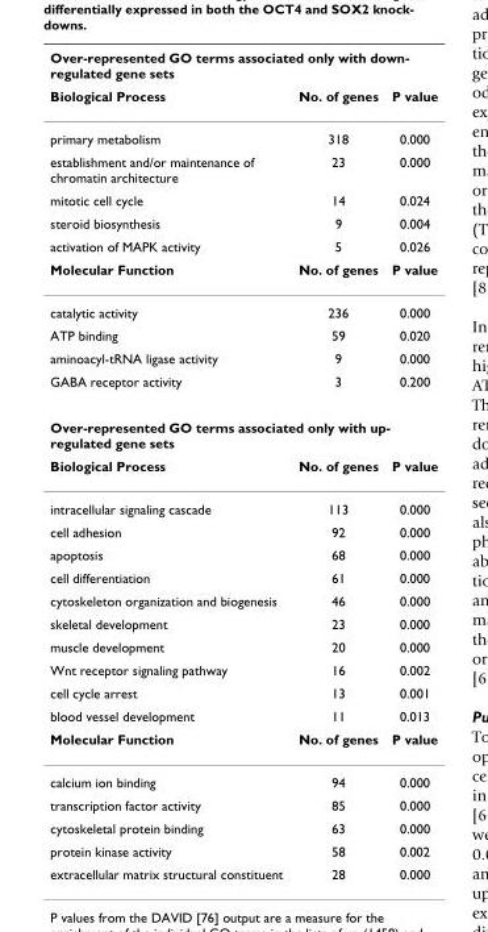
<table><thead><tr><td colspan="3">Over-represented GO terms associated only with down- regulated gene sets</td></tr><tr><td>Biological Process</td><td>No. of genes</td><td>P value</td></tr></thead><tbody><tr><td>primary metabolism</td><td>318</td><td>0.000</td></tr><tr><td>establishment and/or maintenance of chromatin architecture</td><td>23</td><td>0.000</td></tr><tr><td>mitotic cell cycle</td><td>14</td><td>0.024</td></tr><tr><td>steroid biosynthesis</td><td>9</td><td>0.004</td></tr><tr><td>activation of MAPK activity</td><td>5</td><td>0.026</td></tr><tr><td>Molecular Function</td><td>No. of genes</td><td>P value</td></tr><tr><td>catalytic activity</td><td>236</td><td>0.000</td></tr><tr><td>ATP binding</td><td>59</td><td>0.020</td></tr><tr><td>aminoacyl-tRNA ligase activity</td><td>9</td><td>0.000</td></tr><tr><td>GABA receptor activity</td><td>3</td><td>0.200</td></tr><tr><td colspan="3">Over-represented GO terms associated only with up- regulated gene sets</td></tr><tr><td>Biological Process</td><td>No. of genes</td><td>P value</td></tr><tr><td>intracellular signaling cascade</td><td>113</td><td>0.000</td></tr><tr><td>cell adhesion</td><td>92</td><td>0.000</td></tr><tr><td>apoptosis</td><td>68</td><td>0.000</td></tr><tr><td>cell differentiation</td><td>61</td><td>0.000</td></tr><tr><td>cytoskeleton organization and biogenesis</td><td>46</td><td>0.000</td></tr><tr><td>skeletal development</td><td>23</td><td>0.000</td></tr><tr><td>muscle development</td><td>20</td><td>0.000</td></tr><tr><td>Wnt receptor signaling pathway</td><td>16</td><td>0.002</td></tr><tr><td>cell cycle arrest</td><td>13</td><td>0.001</td></tr><tr><td>blood vessel development</td><td>11</td><td>0.013</td></tr><tr><td>Molecular Function</td><td>No. of genes</td><td>P value</td></tr><tr><td>calcium ion binding</td><td>94</td><td>0.000</td></tr><tr><td>transcription factor activity</td><td>85</td><td>0.000</td></tr><tr><td>cytoskeletal protein binding</td><td>63</td><td>0.000</td></tr><tr><td>protein kinase activity</td><td>58</td><td>0.002</td></tr><tr><td>extracellular matrix structural constituent</td><td>28</td><td>0.000</td></tr></tbody></table>